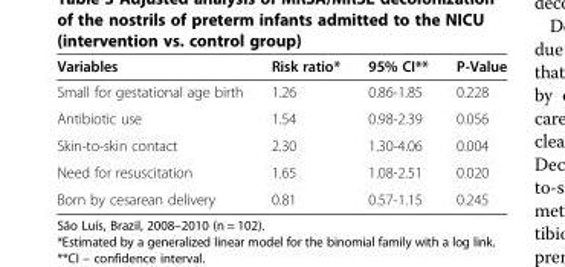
<table><thead><tr><td>Variables</td><td>Risk ratio*</td><td>95% CI**</td><td>P-Value</td></tr></thead><tbody><tr><td>Small for gestational age birth</td><td>1.26</td><td>0.86-1.85</td><td>0.228</td></tr><tr><td>Antibiotic use</td><td>1.54</td><td>0.98-2.39</td><td>0.056</td></tr><tr><td>Skin-to-skin contact</td><td>2.30</td><td>1.30-4.06</td><td>0.004</td></tr><tr><td>Need for resuscitation</td><td>1.65</td><td>1.08-2.51</td><td>0.020</td></tr><tr><td>Born by cesarean delivery</td><td>0.81</td><td>0.57-1.15</td><td>0.245</td></tr></tbody></table>